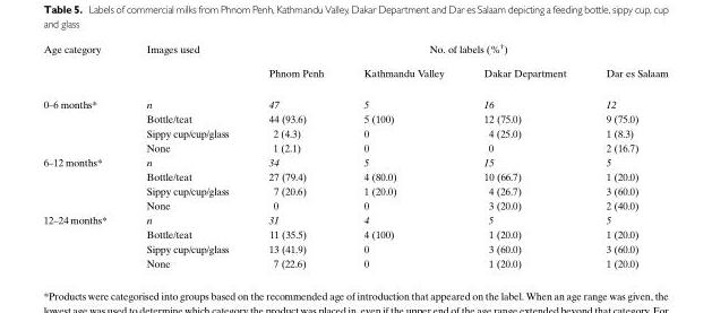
<table><thead><tr><td rowspan="2">Age category</td><td rowspan="2">Images used</td><td colspan="4">No. of labels (%†)</td></tr><tr><td>Phnom Penh</td><td>Kathmandu Valley</td><td>Dakar Department</td><td>Dar es Salaam</td></tr></thead><tbody><tr><td rowspan="4">0–6 months*</td><td>n</td><td>47</td><td>5</td><td>16</td><td>12</td></tr><tr><td>Bottle/teat</td><td>44 (93.6)</td><td>5 (100)</td><td>12 (75.0)</td><td>9 (75.0)</td></tr><tr><td>Sippy cup/cup/glass</td><td>2 (4.3)</td><td>0</td><td>4 (25.0)</td><td>1 (8.3)</td></tr><tr><td>None</td><td>1 (2.1)</td><td>0</td><td>0</td><td>2 (16.7)</td></tr><tr><td rowspan="4">6–12 months*</td><td>n</td><td>34</td><td>5</td><td>15</td><td>5</td></tr><tr><td>Bottle/teat</td><td>27 (79.4)</td><td>4 (80.0)</td><td>10 (66.7)</td><td>1 (20.0)</td></tr><tr><td>Sippy cup/cup/glass</td><td>7 (20.6)</td><td>1 (20.0)</td><td>4 (26.7)</td><td>3 (60.0)</td></tr><tr><td>None</td><td>0</td><td>0</td><td>3 (20.0)</td><td>2 (40.0)</td></tr><tr><td rowspan="4">12–24 months*</td><td>n</td><td>31</td><td>4</td><td>5</td><td>5</td></tr><tr><td>Bottle/teat</td><td>11 (35.5)</td><td>4 (100)</td><td>1 (20.0)</td><td>1 (20.0)</td></tr><tr><td>Sippy cup/cup/glass</td><td>13 (41.9)</td><td>0</td><td>3 (60.0)</td><td>3 (60.0)</td></tr><tr><td>None</td><td>7 (22.6)</td><td>0</td><td>1 (20.0)</td><td>1 (20.0)</td></tr></tbody></table>